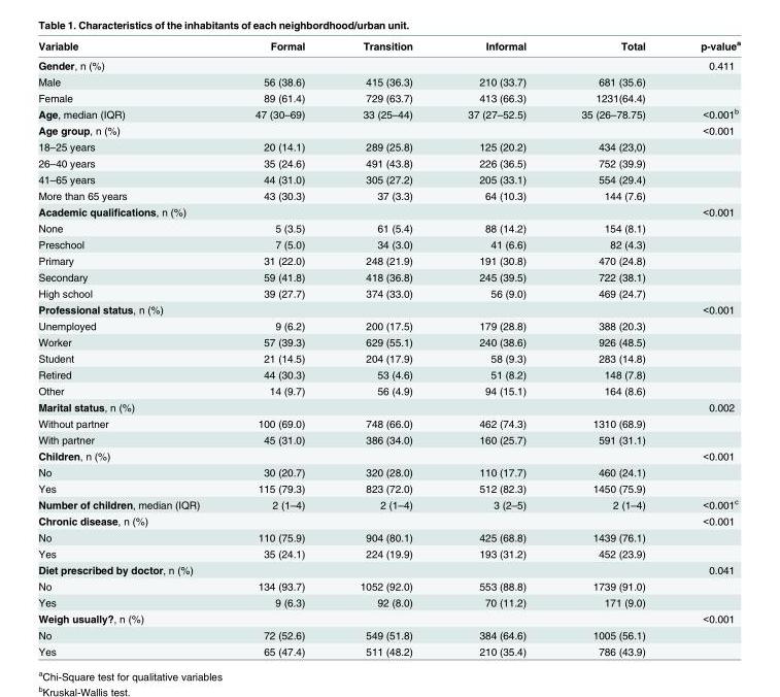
<table><thead><tr><td>Variable</td><td>Formal</td><td>Transition</td><td>Informal</td><td>Total</td><td>p-value<sup>a</sup></td></tr></thead><tbody><tr><td>Gender, n (%)</td><td></td><td></td><td></td><td></td><td>0.411</td></tr><tr><td>Male</td><td>56 (38.6)</td><td>415 (36.3)</td><td>210 (33.7)</td><td>681 (35.6)</td><td></td></tr><tr><td>Female</td><td>89 (61.4)</td><td>729 (63.7)</td><td>413 (66.3)</td><td>1231(64.4)</td><td></td></tr><tr><td>Age, median (IQR)</td><td>47 (30–69)</td><td>33 (25–44)</td><td>37 (27–52.5)</td><td>35 (26–78.75)</td><td>&lt;0.001<sup>b</sup></td></tr><tr><td>Age group, n (%)</td><td></td><td></td><td></td><td></td><td>&lt;0.001</td></tr><tr><td>18–25 years</td><td>20 (14.1)</td><td>289 (25.8)</td><td>125 (20.2)</td><td>434 (23,0)</td><td></td></tr><tr><td>26–40 years</td><td>35 (24.6)</td><td>491 (43.8)</td><td>226 (36.5)</td><td>752 (39.9)</td><td></td></tr><tr><td>41–65 years</td><td>44 (31.0)</td><td>305 (27.2)</td><td>205 (33.1)</td><td>554 (29.4)</td><td></td></tr><tr><td>More than 65 years</td><td>43 (30.3)</td><td>37 (3.3)</td><td>64 (10.3)</td><td>144 (7.6)</td><td></td></tr><tr><td>Academic qualifications, n (%)</td><td></td><td></td><td></td><td></td><td>&lt;0.001</td></tr><tr><td>None</td><td>5 (3.5)</td><td>61 (5.4)</td><td>88 (14.2)</td><td>154 (8.1)</td><td></td></tr><tr><td>Preschool</td><td>7 (5.0)</td><td>34 (3.0)</td><td>41 (6.6)</td><td>82 (4.3)</td><td></td></tr><tr><td>Primary</td><td>31 (22.0)</td><td>248 (21.9)</td><td>191 (30.8)</td><td>470 (24.8)</td><td></td></tr><tr><td>Secondary</td><td>59 (41.8)</td><td>418 (36.8)</td><td>245 (39.5)</td><td>722 (38.1)</td><td></td></tr><tr><td>High school</td><td>39 (27.7)</td><td>374 (33.0)</td><td>56 (9.0)</td><td>469 (24.7)</td><td></td></tr><tr><td>Professional status, n (%)</td><td></td><td></td><td></td><td></td><td>&lt;0.001</td></tr><tr><td>Unemployed</td><td>9 (6.2)</td><td>200 (17.5)</td><td>179 (28.8)</td><td>388 (20.3)</td><td></td></tr><tr><td>Worker</td><td>57 (39.3)</td><td>629 (55.1)</td><td>240 (38.6)</td><td>926 (48.5)</td><td></td></tr><tr><td>Student</td><td>21 (14.5)</td><td>204 (17.9)</td><td>58 (9.3)</td><td>283 (14.8)</td><td></td></tr><tr><td>Retired</td><td>44 (30.3)</td><td>53 (4.6)</td><td>51 (8.2)</td><td>148 (7.8)</td><td></td></tr><tr><td>Other</td><td>14 (9.7)</td><td>56 (4.9)</td><td>94 (15.1)</td><td>164 (8.6)</td><td></td></tr><tr><td>Marital status, n (%)</td><td></td><td></td><td></td><td></td><td>0.002</td></tr><tr><td>Without partner</td><td>100 (69.0)</td><td>748 (66.0)</td><td>462 (74.3)</td><td>1310 (68.9)</td><td></td></tr><tr><td>With partner</td><td>45 (31.0)</td><td>386 (34.0)</td><td>160 (25.7)</td><td>591 (31.1)</td><td></td></tr><tr><td>Children, n (%)</td><td></td><td></td><td></td><td></td><td>&lt;0.001</td></tr><tr><td>No</td><td>30 (20.7)</td><td>320 (28.0)</td><td>110 (17.7)</td><td>460 (24.1)</td><td></td></tr><tr><td>Yes</td><td>115 (79.3)</td><td>823 (72.0)</td><td>512 (82.3)</td><td>1450 (75.9)</td><td></td></tr><tr><td>Number of children, median (IQR)</td><td>2 (1–4)</td><td>2 (1–4)</td><td>3 (2–5)</td><td>2 (1–4)</td><td>&lt;0.001<sup>c</sup></td></tr><tr><td>Chronic disease, n (%)</td><td></td><td></td><td></td><td></td><td>&lt;0.001</td></tr><tr><td>No</td><td>110 (75.9)</td><td>904 (80.1)</td><td>425 (68.8)</td><td>1439 (76.1)</td><td></td></tr><tr><td>Yes</td><td>35 (24.1)</td><td>224 (19.9)</td><td>193 (31.2)</td><td>452 (23.9)</td><td></td></tr><tr><td>Diet prescribed by doctor, n (%)</td><td></td><td></td><td></td><td></td><td>0.041</td></tr><tr><td>No</td><td>134 (93.7)</td><td>1052 (92.0)</td><td>553 (88.8)</td><td>1739 (91.0)</td><td></td></tr><tr><td>Yes</td><td>9 (6.3)</td><td>92 (8.0)</td><td>70 (11.2)</td><td>171 (9.0)</td><td></td></tr><tr><td>Weigh usually?, n (%)</td><td></td><td></td><td></td><td></td><td>&lt;0.001</td></tr><tr><td>No</td><td>72 (52.6)</td><td>549 (51.8)</td><td>384 (64.6)</td><td>1005 (56.1)</td><td></td></tr><tr><td>Yes</td><td>65 (47.4)</td><td>511 (48.2)</td><td>210 (35.4)</td><td>786 (43.9)</td><td></td></tr></tbody></table>